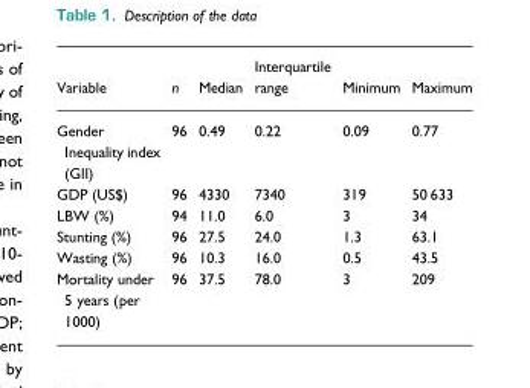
<table><thead><tr><td>Variable</td><td>n</td><td>Median</td><td>Interquartile range</td><td>Minimum</td><td>Maximum</td></tr></thead><tbody><tr><td>Gender Inequality index (GII)</td><td>96</td><td>0.49</td><td>0.22</td><td>0.09</td><td>0.77</td></tr><tr><td>GDP (US$)</td><td>96</td><td>4330</td><td>7340</td><td>319</td><td>50 633</td></tr><tr><td>LBW (%)</td><td>94</td><td>11.0</td><td>6.0</td><td>3</td><td>34</td></tr><tr><td>Stunting (%)</td><td>96</td><td>27.5</td><td>24.0</td><td>1.3</td><td>63.1</td></tr><tr><td>Wasting (%)</td><td>96</td><td>10.3</td><td>16.0</td><td>0.5</td><td>43.5</td></tr><tr><td>Mortality under 5 years (per 1000)</td><td>96</td><td>37.5</td><td>78.0</td><td>3</td><td>209</td></tr></tbody></table>